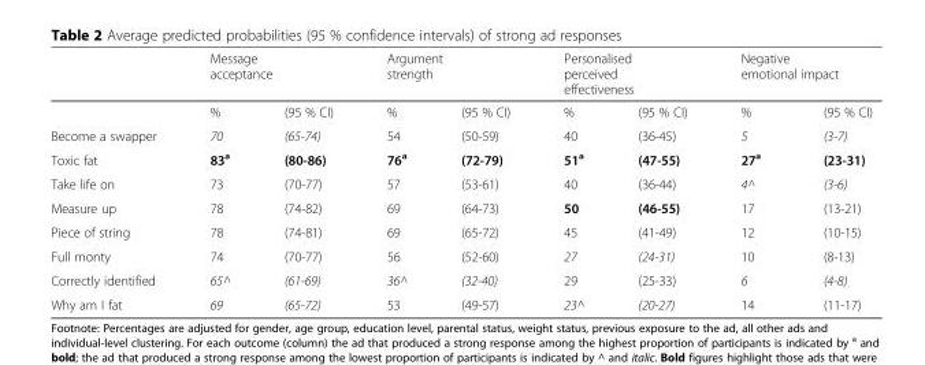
<table><thead><tr><td rowspan="2"></td><td colspan="2">Message acceptance</td><td colspan="2">Argument strength</td><td colspan="2">Personalised perceived effectiveness</td><td colspan="2">Negative emotional impact</td></tr><tr><td>%</td><td>(95 % CI)</td><td>%</td><td>(95 % CI)</td><td>%</td><td>(95 % CI)</td><td>%</td><td>(95 % CI)</td></tr></thead><tbody><tr><td>Become a swapper</td><td>70</td><td>(65-74)</td><td>54</td><td>(50-59)</td><td>40</td><td>(36-45)</td><td>5</td><td>(3-7)</td></tr><tr><td>Toxic fat</td><td>83<sup>a</sup></td><td>(80-86)</td><td>76<sup>a</sup></td><td>(72-79)</td><td>51<sup>a</sup></td><td>(47-55)</td><td>27<sup>a</sup></td><td>(23-31)</td></tr><tr><td>Take life on</td><td>73</td><td>(70-77)</td><td>57</td><td>(53-61)</td><td>40</td><td>(36-44)</td><td>4^</td><td>(3-6)</td></tr><tr><td>Measure up</td><td>78</td><td>(74-82)</td><td>69</td><td>(64-73)</td><td>50</td><td>(46-55)</td><td>17</td><td>(13-21)</td></tr><tr><td>Piece of string</td><td>78</td><td>(74-81)</td><td>69</td><td>(65-72)</td><td>45</td><td>(41-49)</td><td>12</td><td>(10-15)</td></tr><tr><td>Full monty</td><td>74</td><td>(70-77)</td><td>56</td><td>(52-60)</td><td>27</td><td>(24-31)</td><td>10</td><td>(8-13)</td></tr><tr><td>Correctly identified</td><td>65^</td><td>(61-69)</td><td>36^</td><td>(32-40)</td><td>29</td><td>(25-33)</td><td>6</td><td>(4-8)</td></tr><tr><td>Why am I fat</td><td>69</td><td>(65-72)</td><td>53</td><td>(49-57)</td><td>23^</td><td>(20-27)</td><td>14</td><td>(11-17)</td></tr></tbody></table>